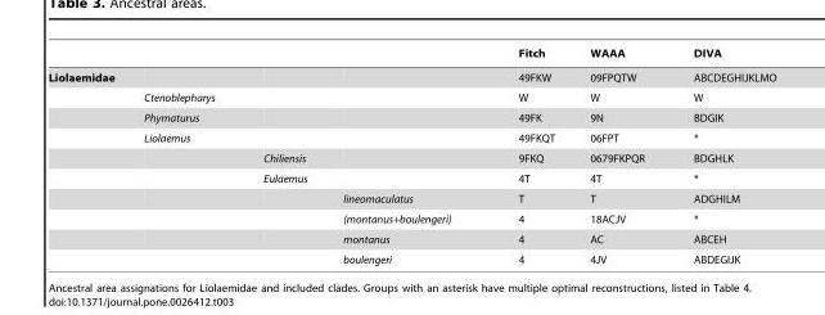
<table><thead><tr><td></td><td></td><td></td><td></td><td>Fitch</td><td>WAAA</td><td>DIVA</td></tr></thead><tbody><tr><td rowspan="10">Liolaemidae</td><td></td><td></td><td></td><td>49FKW</td><td>09FPQTW</td><td>ABCDEGHIJKLMO</td></tr><tr><td>Ctenoblepharys</td><td></td><td></td><td>W</td><td>W</td><td>W</td></tr><tr><td>Phymaturus</td><td></td><td></td><td>49FK</td><td>9N</td><td>BDGIK</td></tr><tr><td>Liolaemus</td><td></td><td></td><td>49FKQT</td><td>06FPT</td><td>*</td></tr><tr><td></td><td>Chiliensis</td><td></td><td>9FKQ</td><td>0679FKPQR</td><td>BDGHLK</td></tr><tr><td></td><td>Eulaemus</td><td></td><td>4T</td><td>4T</td><td>*</td></tr><tr><td></td><td></td><td>lineomaculatus</td><td>T</td><td>T</td><td>ADGHILM</td></tr><tr><td></td><td></td><td>(montanus+boulengeri)</td><td>4</td><td>18ACJV</td><td>*</td></tr><tr><td></td><td></td><td>montanus</td><td>4</td><td>AC</td><td>ABCEH</td></tr><tr><td></td><td></td><td>boulengeri</td><td>4</td><td>4JV</td><td>ABDEGIJK</td></tr></tbody></table>